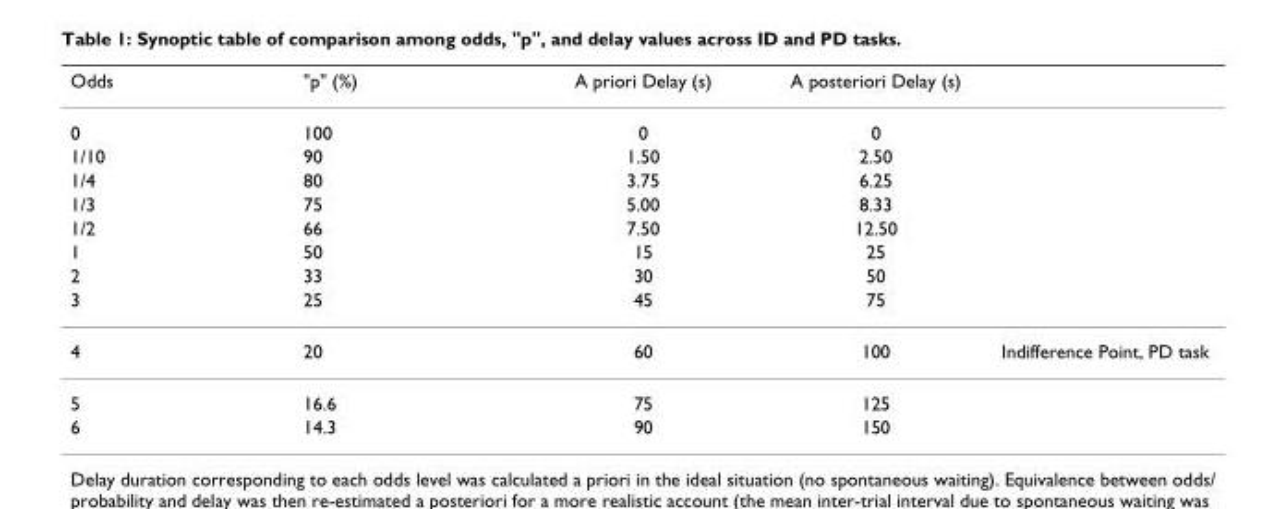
<table><thead><tr><td>Odds</td><td>&quot;p&quot; (%)</td><td>A priori Delay (s)</td><td>A posteriori Delay (s)</td><td></td></tr></thead><tbody><tr><td>0</td><td>100</td><td>0</td><td>0</td><td></td></tr><tr><td>1/10</td><td>90</td><td>1.50</td><td>2.50</td><td></td></tr><tr><td>1/4</td><td>80</td><td>3.75</td><td>6.25</td><td></td></tr><tr><td>1/3</td><td>75</td><td>5.00</td><td>8.33</td><td></td></tr><tr><td>1/2</td><td>66</td><td>7.50</td><td>12.50</td><td></td></tr><tr><td>1</td><td>50</td><td>15</td><td>25</td><td></td></tr><tr><td>2</td><td>33</td><td>30</td><td>50</td><td></td></tr><tr><td>3</td><td>25</td><td>45</td><td>75</td><td></td></tr><tr><td>4</td><td>20</td><td>60</td><td>100</td><td>Indifference Point, PD task</td></tr><tr><td>5</td><td>16.6</td><td>75</td><td>125</td><td></td></tr><tr><td>6</td><td>14.3</td><td>90</td><td>150</td><td></td></tr></tbody></table>